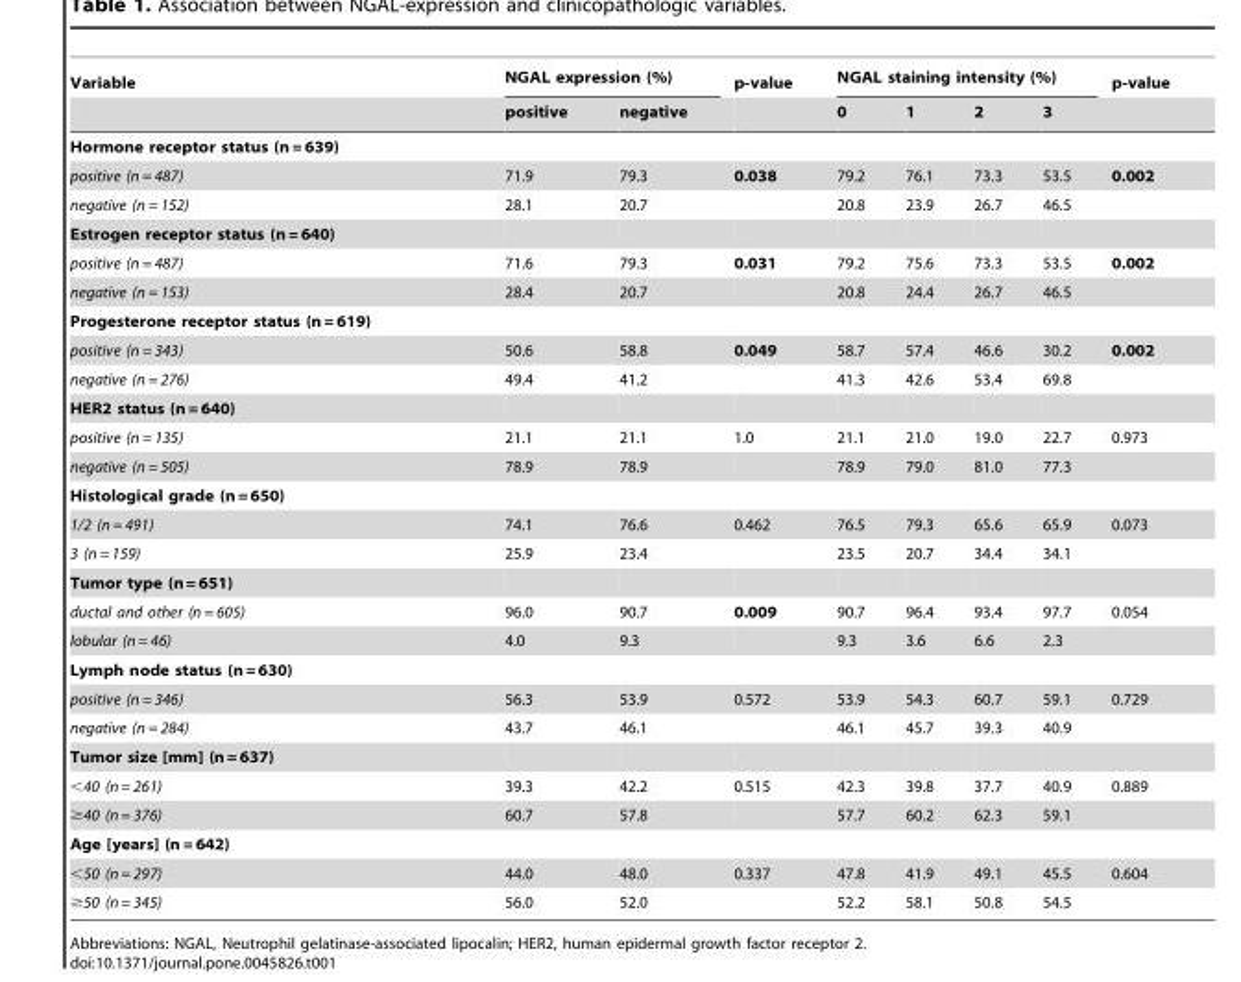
<table><thead><tr><td rowspan="2">Variable</td><td colspan="2">NGAL expression (%)</td><td rowspan="2">p-value</td><td colspan="4">NGAL staining intensity (%)</td><td rowspan="2">p-value</td></tr><tr><td>positive</td><td>negative</td><td>0</td><td>1</td><td>2</td><td>3</td></tr></thead><tbody><tr><td colspan="9">Hormone receptor status (n = 639)</td></tr><tr><td>positive (n = 487)</td><td>71.9</td><td>79.3</td><td>0.038</td><td>79.2</td><td>76.1</td><td>73.3</td><td>53.5</td><td>0.002</td></tr><tr><td>negative (n = 152)</td><td>28.1</td><td>20.7</td><td></td><td>20.8</td><td>23.9</td><td>26.7</td><td>46.5</td><td></td></tr><tr><td colspan="9">Estrogen receptor status (n = 640)</td></tr><tr><td>positive (n = 487)</td><td>71.6</td><td>79.3</td><td>0.031</td><td>79.2</td><td>75.6</td><td>73.3</td><td>53.5</td><td>0.002</td></tr><tr><td>negative (n = 153)</td><td>28.4</td><td>20.7</td><td></td><td>20.8</td><td>24.4</td><td>26.7</td><td>46.5</td><td></td></tr><tr><td colspan="9">Progesterone receptor status (n = 619)</td></tr><tr><td>positive (n = 343)</td><td>50.6</td><td>58.8</td><td>0.049</td><td>58.7</td><td>57.4</td><td>46.6</td><td>30.2</td><td>0.002</td></tr><tr><td>negative (n = 276)</td><td>49.4</td><td>41.2</td><td></td><td>41.3</td><td>42.6</td><td>53.4</td><td>69.8</td><td></td></tr><tr><td colspan="9">HER2 status (n = 640)</td></tr><tr><td>positive (n = 135)</td><td>21.1</td><td>21.1</td><td>1.0</td><td>21.1</td><td>21.0</td><td>19.0</td><td>22.7</td><td>0.973</td></tr><tr><td>negative (n = 505)</td><td>78.9</td><td>78.9</td><td></td><td>78.9</td><td>79.0</td><td>81.0</td><td>77.3</td><td></td></tr><tr><td colspan="9">Histological grade (n = 650)</td></tr><tr><td>1/2 (n = 491)</td><td>74.1</td><td>76.6</td><td>0.462</td><td>76.5</td><td>79.3</td><td>65.6</td><td>65.9</td><td>0.073</td></tr><tr><td>3 (n = 159)</td><td>25.9</td><td>23.4</td><td></td><td>23.5</td><td>20.7</td><td>34.4</td><td>34.1</td><td></td></tr><tr><td colspan="9">Tumor type (n = 651)</td></tr><tr><td>ductal and other (n = 605)</td><td>96.0</td><td>90.7</td><td>0.009</td><td>90.7</td><td>96.4</td><td>93.4</td><td>97.7</td><td>0.054</td></tr><tr><td>lobular (n = 46)</td><td>4.0</td><td>9.3</td><td></td><td>9.3</td><td>3.6</td><td>6.6</td><td>2.3</td><td></td></tr><tr><td colspan="9">Lymph node status (n = 630)</td></tr><tr><td>positive (n = 346)</td><td>56.3</td><td>53.9</td><td>0.572</td><td>53.9</td><td>54.3</td><td>60.7</td><td>59.1</td><td>0.729</td></tr><tr><td>negative (n = 284)</td><td>43.7</td><td>46.1</td><td></td><td>46.1</td><td>45.7</td><td>39.3</td><td>40.9</td><td></td></tr><tr><td colspan="9">Tumor size [mm] (n = 637)</td></tr><tr><td>&lt;40 (n = 261)</td><td>39.3</td><td>42.2</td><td>0.515</td><td>42.3</td><td>39.8</td><td>37.7</td><td>40.9</td><td>0.889</td></tr><tr><td>≥40 (n = 376)</td><td>60.7</td><td>57.8</td><td></td><td>57.7</td><td>60.2</td><td>62.3</td><td>59.1</td><td></td></tr><tr><td colspan="9">Age [years] (n = 642)</td></tr><tr><td>&lt;50 (n = 297)</td><td>44.0</td><td>48.0</td><td>0.337</td><td>47.8</td><td>41.9</td><td>49.1</td><td>45.5</td><td>0.604</td></tr><tr><td>≥50 (n = 345)</td><td>56.0</td><td>52.0</td><td></td><td>52.2</td><td>58.1</td><td>50.8</td><td>54.5</td><td></td></tr></tbody></table>